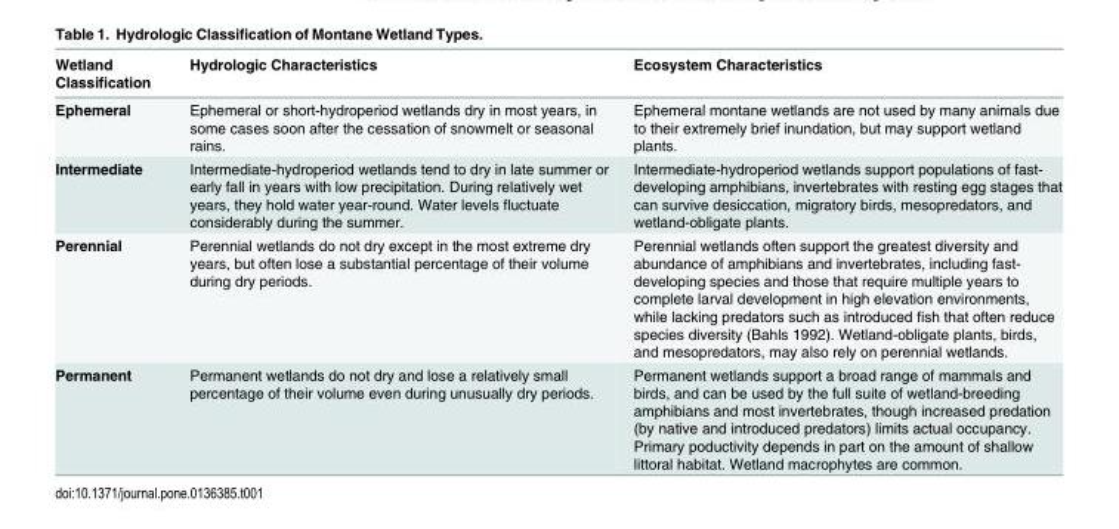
<table><thead><tr><td>Wetland Classification</td><td>Hydrologic Characteristics</td><td>Ecosystem Characteristics</td></tr></thead><tbody><tr><td>Ephemeral</td><td>Ephemeral or short-hydroperiod wetlands dry in most years, in some cases soon after the cessation of snowmelt or seasonal rains.</td><td>Ephemeral montane wetlands are not used by many animals due to their extremely brief inundation, but may support wetland plants.</td></tr><tr><td>Intermediate</td><td>Intermediate-hydroperiod wetlands tend to dry in late summer or early fall in years with low precipitation. During relatively wet years, they hold water year-round. Water levels fluctuate considerably during the summer.</td><td>Intermediate-hydroperiod wetlands support populations of fast- developing amphibians, invertebrates with resting egg stages that can survive desiccation, migratory birds, mesopredators, and wetland-obligate plants.</td></tr><tr><td>Perennial</td><td>Perennial wetlands do not dry except in the most extreme dry years, but often lose a substantial percentage of their volume during dry periods.</td><td>Perennial wetlands often support the greatest diversity and abundance of amphibians and invertebrates, including fast- developing species and those that require multiple years to complete larval development in high elevation environments, while lacking predators such as introduced fish that often reduce species diversity (Bahls 1992). Wetland-obligate plants, birds, and mesopredators, may also rely on perennial wetlands.</td></tr><tr><td>Permanent</td><td>Permanent wetlands do not dry and lose a relatively small percentage of their volume even during unusually dry periods.</td><td>Permanent wetlands support a broad range of mammals and birds, and can be used by the full suite of wetland-breeding amphibians and most invertebrates, though increased predation (by native and introduced predators) limits actual occupancy. Primary poductivity depends in part on the amount of shallow littoral habitat. Wetland macrophytes are common.</td></tr></tbody></table>